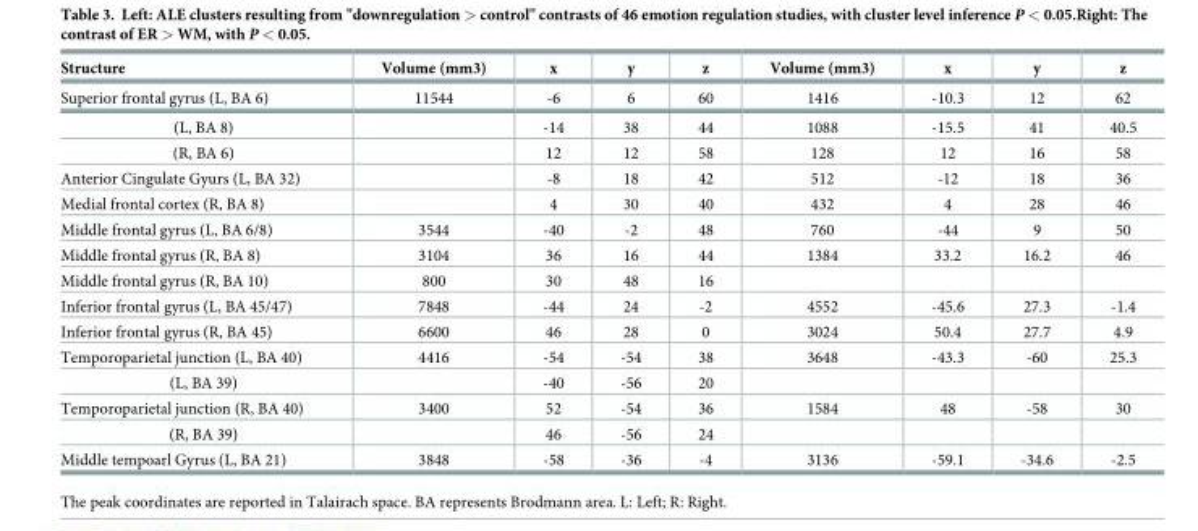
<table><thead><tr><td>Structure</td><td>Volume (mm3)</td><td>x</td><td>y</td><td>z</td><td>Volume (mm3)</td><td>x</td><td>y</td><td>z</td></tr></thead><tbody><tr><td>Superior frontal gyrus (L, BA 6)</td><td>11544</td><td>-6</td><td>6</td><td>60</td><td>1416</td><td>-10.3</td><td>12</td><td>62</td></tr><tr><td>(L, BA 8)</td><td></td><td>-14</td><td>38</td><td>44</td><td>1088</td><td>-15.5</td><td>41</td><td>40.5</td></tr><tr><td>(R, BA 6)</td><td></td><td>12</td><td>12</td><td>58</td><td>128</td><td>12</td><td>16</td><td>58</td></tr><tr><td>Anterior Cingulate Gyurs (L, BA 32)</td><td></td><td>-8</td><td>18</td><td>42</td><td>512</td><td>-12</td><td>18</td><td>36</td></tr><tr><td>Medial frontal cortex (R, BA 8)</td><td></td><td>4</td><td>30</td><td>40</td><td>432</td><td>4</td><td>28</td><td>46</td></tr><tr><td>Middle frontal gyrus (L, BA 6/8)</td><td>3544</td><td>-40</td><td>-2</td><td>48</td><td>760</td><td>-44</td><td>9</td><td>50</td></tr><tr><td>Middle frontal gyrus (R, BA 8)</td><td>3104</td><td>36</td><td>16</td><td>44</td><td>1384</td><td>33.2</td><td>16.2</td><td>46</td></tr><tr><td>Middle frontal gyrus (R, BA 10)</td><td>800</td><td>30</td><td>48</td><td>16</td><td></td><td></td><td></td><td></td></tr><tr><td>Inferior frontal gyrus (L, BA 45/47)</td><td>7848</td><td>-44</td><td>24</td><td>-2</td><td>4552</td><td>-45.6</td><td>27.3</td><td>-1.4</td></tr><tr><td>Inferior frontal gyrus (R, BA 45)</td><td>6600</td><td>46</td><td>28</td><td>0</td><td>3024</td><td>50.4</td><td>27.7</td><td>4.9</td></tr><tr><td>Temporoparietal junction (L, BA 40)</td><td>4416</td><td>-54</td><td>-54</td><td>38</td><td>3648</td><td>-43.3</td><td>-60</td><td>25.3</td></tr><tr><td>(L, BA 39)</td><td></td><td>-40</td><td>-56</td><td>20</td><td></td><td></td><td></td><td></td></tr><tr><td>Temporoparietal junction (R, BA 40)</td><td>3400</td><td>52</td><td>-54</td><td>36</td><td>1584</td><td>48</td><td>-58</td><td>30</td></tr><tr><td>(R, BA 39)</td><td></td><td>46</td><td>-56</td><td>24</td><td></td><td></td><td></td><td></td></tr><tr><td>Middle tempoarl Gyrus (L, BA 21)</td><td>3848</td><td>-58</td><td>-36</td><td>-4</td><td>3136</td><td>-59.1</td><td>-34.6</td><td>-2.5</td></tr></tbody></table>